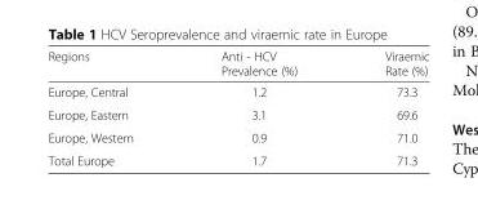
<table><thead><tr><td>Regions</td><td>Anti - HCV Prevalence (%)</td><td>Viraemic Rate (%)</td></tr></thead><tbody><tr><td>Europe, Central</td><td>1.2</td><td>73.3</td></tr><tr><td>Europe, Eastern</td><td>3.1</td><td>69.6</td></tr><tr><td>Europe, Western</td><td>0.9</td><td>71.0</td></tr><tr><td>Total Europe</td><td>1.7</td><td>71.3</td></tr></tbody></table>